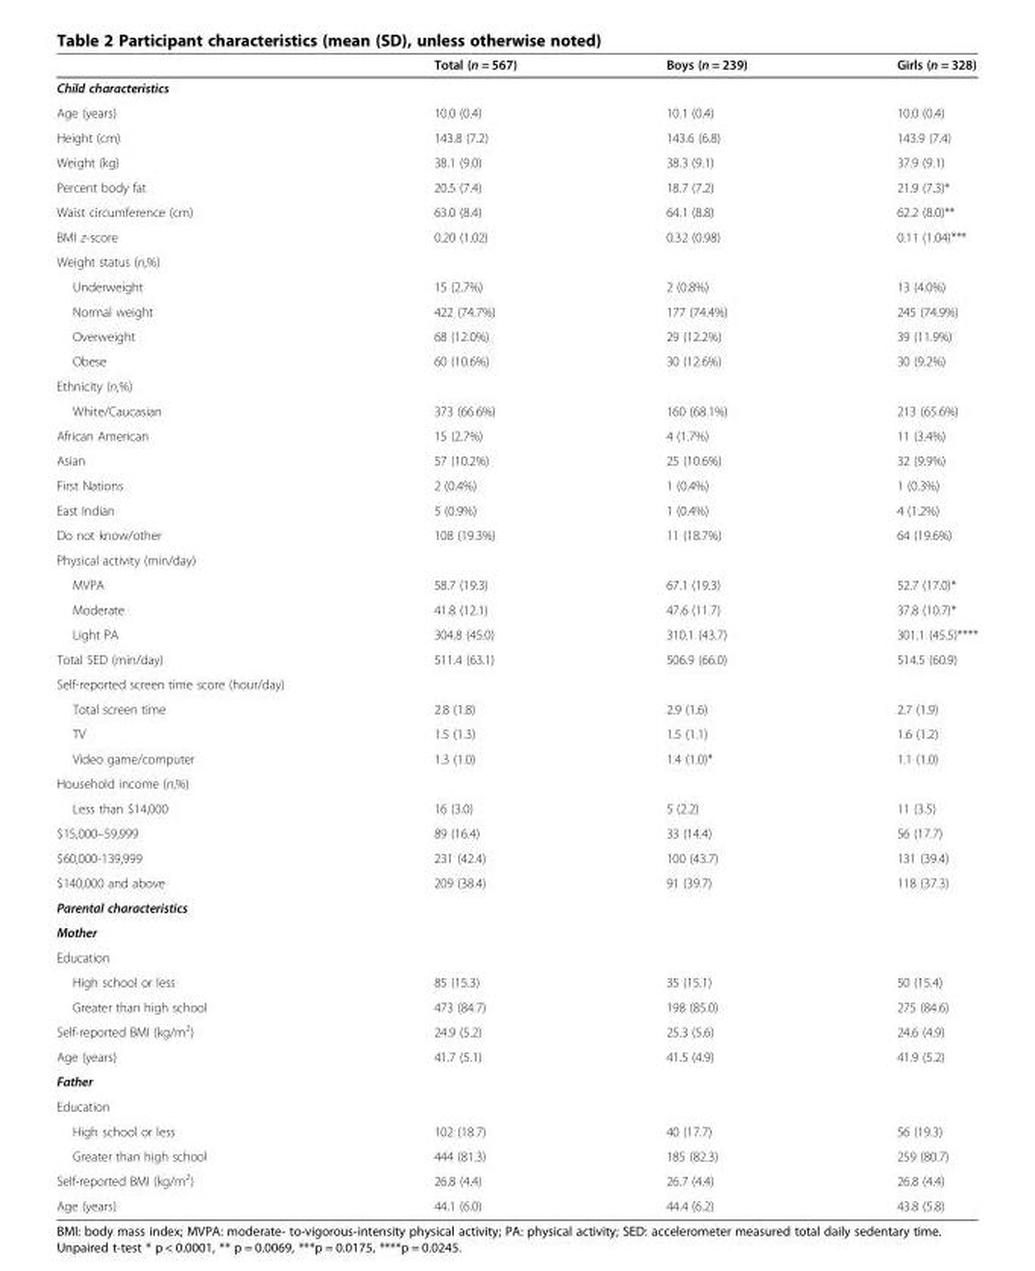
<table><thead><tr><td></td><td>Total (n = 567)</td><td>Boys (n = 239)</td><td>Girls (n = 328)</td></tr></thead><tbody><tr><td colspan="4">Child characteristics</td></tr><tr><td>Age (years)</td><td>10.0 (0.4)</td><td>10.1 (0.4)</td><td>10.0 (0.4)</td></tr><tr><td>Height (cm)</td><td>143.8 (7.2)</td><td>143.6 (6.8)</td><td>143.9 (7.4)</td></tr><tr><td>Weight (kg)</td><td>38.1 (9.0)</td><td>38.3 (9.1)</td><td>37.9 (9.1)</td></tr><tr><td>Percent body fat</td><td>20.5 (7.4)</td><td>18.7 (7.2)</td><td>21.9 (7.3)*</td></tr><tr><td>Waist circumference (cm)</td><td>63.0 (8.4)</td><td>64.1 (8.8)</td><td>62.2 (8.0)**</td></tr><tr><td>BMI z-score</td><td>0.20 (1.02)</td><td>0.32 (0.98)</td><td>0.11 (1.04)***</td></tr><tr><td colspan="4">Weight status (n,%)</td></tr><tr><td>Underweight</td><td>15 (2.7%)</td><td>2 (0.8%)</td><td>13 (4.0%)</td></tr><tr><td>Normal weight</td><td>422 (74.7%)</td><td>177 (74.4%)</td><td>245 (74.9%)</td></tr><tr><td>Overweight</td><td>68 (12.0%)</td><td>29 (12.2%)</td><td>39 (11.9%)</td></tr><tr><td>Obese</td><td>60 (10.6%)</td><td>30 (12.6%)</td><td>30 (9.2%)</td></tr><tr><td colspan="4">Ethnicity (n,%)</td></tr><tr><td>White/Caucasian</td><td>373 (66.6%)</td><td>160 (68.1%)</td><td>213 (65.6%)</td></tr><tr><td>African American</td><td>15 (2.7%)</td><td>4 (1.7%)</td><td>11 (3.4%)</td></tr><tr><td>Asian</td><td>57 (10.2%)</td><td>25 (10.6%)</td><td>32 (9.9%)</td></tr><tr><td>First Nations</td><td>2 (0.4%)</td><td>1 (0.4%)</td><td>1 (0.3%)</td></tr><tr><td>East Indian</td><td>5 (0.9%)</td><td>1 (0.4%)</td><td>4 (1.2%)</td></tr><tr><td>Do not know/other</td><td>108 (19.3%)</td><td>11 (18.7%)</td><td>64 (19.6%)</td></tr><tr><td colspan="4">Physical activity (min/day)</td></tr><tr><td>MVPA</td><td>58.7 (19.3)</td><td>67.1 (19.3)</td><td>52.7 (17.0)*</td></tr><tr><td>Moderate</td><td>41.8 (12.1)</td><td>47.6 (11.7)</td><td>37.8 (10.7)*</td></tr><tr><td>Light PA</td><td>304.8 (45.0)</td><td>310.1 (43.7)</td><td>301.1 (45.5)****</td></tr><tr><td>Total SED (min/day)</td><td>511.4 (63.1)</td><td>506.9 (66.0)</td><td>514.5 (60.9)</td></tr><tr><td colspan="4">Self-reported screen time score (hour/day)</td></tr><tr><td>Total screen time</td><td>2.8 (1.8)</td><td>2.9 (1.6)</td><td>2.7 (1.9)</td></tr><tr><td>TV</td><td>1.5 (1.3)</td><td>1.5 (1.1)</td><td>1.6 (1.2)</td></tr><tr><td>Video game/computer</td><td>1.3 (1.0)</td><td>1.4 (1.0)*</td><td>1.1 (1.0)</td></tr><tr><td colspan="4">Household income (n,%)</td></tr><tr><td>Less than $14,000</td><td>16 (3.0)</td><td>5 (2.2)</td><td>11 (3.5)</td></tr><tr><td>$15,000–59,999</td><td>89 (16.4)</td><td>33 (14.4)</td><td>56 (17.7)</td></tr><tr><td>$60,000-139,999</td><td>231 (42.4)</td><td>100 (43.7)</td><td>131 (39.4)</td></tr><tr><td>$140,000 and above</td><td>209 (38.4)</td><td>91 (39.7)</td><td>118 (37.3)</td></tr><tr><td colspan="4">Parental characteristics</td></tr><tr><td colspan="4">Mother</td></tr><tr><td colspan="4">Education</td></tr><tr><td>High school or less</td><td>85 (15.3)</td><td>35 (15.1)</td><td>50 (15.4)</td></tr><tr><td>Greater than high school</td><td>473 (84.7)</td><td>198 (85.0)</td><td>275 (84.6)</td></tr><tr><td>Self-reported BMI (kg/m<sup>2</sup>)</td><td>24.9 (5.2)</td><td>25.3 (5.6)</td><td>24.6 (4.9)</td></tr><tr><td>Age (years)</td><td>41.7 (5.1)</td><td>41.5 (4.9)</td><td>41.9 (5.2)</td></tr><tr><td colspan="4">Father</td></tr><tr><td colspan="4">Education</td></tr><tr><td>High school or less</td><td>102 (18.7)</td><td>40 (17.7)</td><td>56 (19.3)</td></tr><tr><td>Greater than high school</td><td>444 (81.3)</td><td>185 (82.3)</td><td>259 (80.7)</td></tr><tr><td>Self-reported BMI (kg/m<sup>2</sup>)</td><td>26.8 (4.4)</td><td>26.7 (4.4)</td><td>26.8 (4.4)</td></tr><tr><td>Age (years)</td><td>44.1 (6.0)</td><td>44.4 (6.2)</td><td>43.8 (5.8)</td></tr></tbody></table>